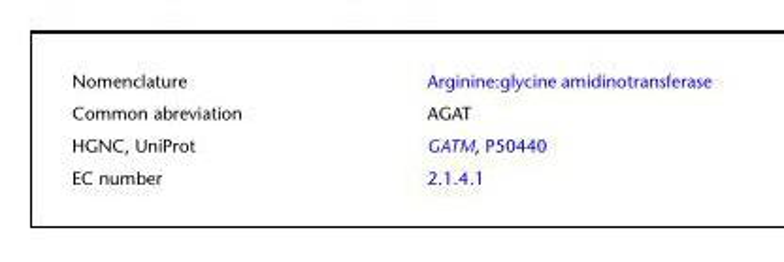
<table><tbody><tr><td>Nomenclature</td><td>Arginine:glycine amidinotransferase</td></tr><tr><td>Common abreviation</td><td>AGAT</td></tr><tr><td>HGNC, UniProt</td><td>GATM, P50440</td></tr><tr><td>EC number</td><td>2.1.4.1</td></tr></tbody></table>